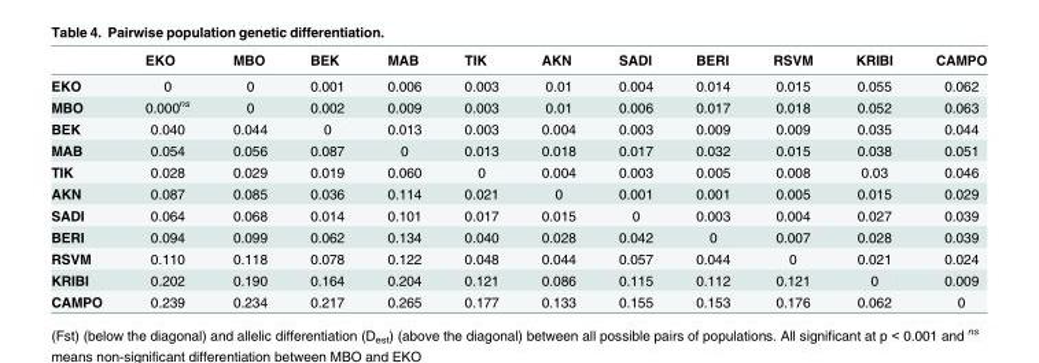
<table><thead><tr><td></td><td>EKO</td><td>MBO</td><td>BEK</td><td>MAB</td><td>TIK</td><td>AKN</td><td>SADI</td><td>BERI</td><td>RSVM</td><td>KRIBI</td><td>CAMPO</td></tr></thead><tbody><tr><td>EKO</td><td>0</td><td>0</td><td>0.001</td><td>0.006</td><td>0.003</td><td>0.01</td><td>0.004</td><td>0.014</td><td>0.015</td><td>0.055</td><td>0.062</td></tr><tr><td>MBO</td><td>0.000<sup>ns</sup></td><td>0</td><td>0.002</td><td>0.009</td><td>0.003</td><td>0.01</td><td>0.006</td><td>0.017</td><td>0.018</td><td>0.052</td><td>0.063</td></tr><tr><td>BEK</td><td>0.040</td><td>0.044</td><td>0</td><td>0.013</td><td>0.003</td><td>0.004</td><td>0.003</td><td>0.009</td><td>0.009</td><td>0.035</td><td>0.044</td></tr><tr><td>MAB</td><td>0.054</td><td>0.056</td><td>0.087</td><td>0</td><td>0.013</td><td>0.018</td><td>0.017</td><td>0.032</td><td>0.015</td><td>0.038</td><td>0.051</td></tr><tr><td>TIK</td><td>0.028</td><td>0.029</td><td>0.019</td><td>0.060</td><td>0</td><td>0.004</td><td>0.003</td><td>0.005</td><td>0.008</td><td>0.03</td><td>0.046</td></tr><tr><td>AKN</td><td>0.087</td><td>0.085</td><td>0.036</td><td>0.114</td><td>0.021</td><td>0</td><td>0.001</td><td>0.001</td><td>0.005</td><td>0.015</td><td>0.029</td></tr><tr><td>SADI</td><td>0.064</td><td>0.068</td><td>0.014</td><td>0.101</td><td>0.017</td><td>0.015</td><td>0</td><td>0.003</td><td>0.004</td><td>0.027</td><td>0.039</td></tr><tr><td>BERI</td><td>0.094</td><td>0.099</td><td>0.062</td><td>0.134</td><td>0.040</td><td>0.028</td><td>0.042</td><td>0</td><td>0.007</td><td>0.028</td><td>0.039</td></tr><tr><td>RSVM</td><td>0.110</td><td>0.118</td><td>0.078</td><td>0.122</td><td>0.048</td><td>0.044</td><td>0.057</td><td>0.044</td><td>0</td><td>0.021</td><td>0.024</td></tr><tr><td>KRIBI</td><td>0.202</td><td>0.190</td><td>0.164</td><td>0.204</td><td>0.121</td><td>0.086</td><td>0.115</td><td>0.112</td><td>0.121</td><td>0</td><td>0.009</td></tr><tr><td>CAMPO</td><td>0.239</td><td>0.234</td><td>0.217</td><td>0.265</td><td>0.177</td><td>0.133</td><td>0.155</td><td>0.153</td><td>0.176</td><td>0.062</td><td>0</td></tr></tbody></table>